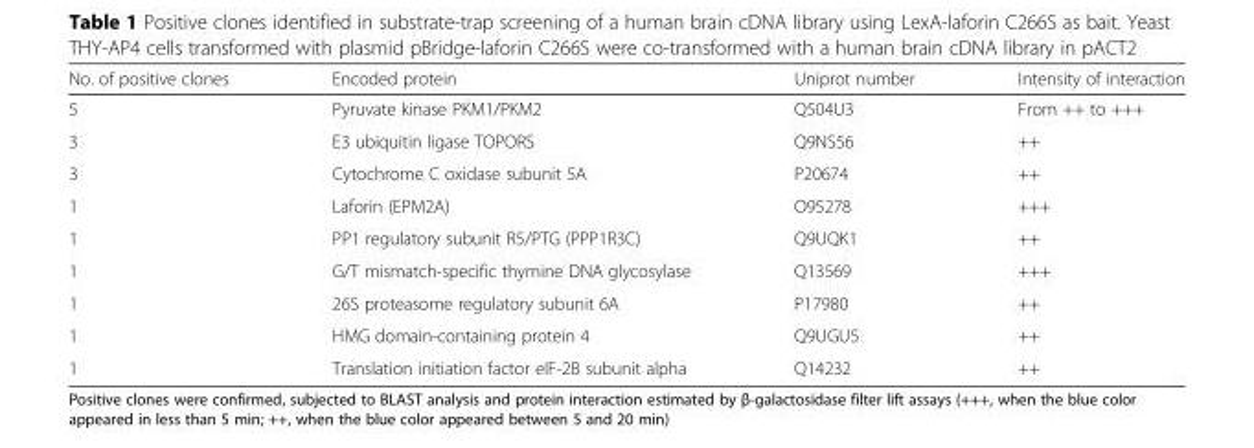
<table><thead><tr><td>No. of positive clones</td><td>Encoded protein</td><td>Uniprot number</td><td>Intensity of interaction</td></tr></thead><tbody><tr><td>5</td><td>Pyruvate kinase PKM1/PKM2</td><td>Q504U3</td><td>From ++ to +++</td></tr><tr><td>3</td><td>E3 ubiquitin ligase TOPORS</td><td>Q9NS56</td><td>++</td></tr><tr><td>3</td><td>Cytochrome C oxidase subunit 5A</td><td>P20674</td><td>++</td></tr><tr><td>1</td><td>Laforin (EPM2A)</td><td>O95278</td><td>+++</td></tr><tr><td>1</td><td>PP1 regulatory subunit R5/PTG (PPP1R3C)</td><td>Q9UQK1</td><td>++</td></tr><tr><td>1</td><td>G/T mismatch-specific thymine DNA glycosylase</td><td>Q13569</td><td>+++</td></tr><tr><td>1</td><td>26S proteasome regulatory subunit 6A</td><td>P17980</td><td>++</td></tr><tr><td>1</td><td>HMG domain-containing protein 4</td><td>Q9UGU5</td><td>++</td></tr><tr><td>1</td><td>Translation initiation factor eIF-2B subunit alpha</td><td>Q14232</td><td>++</td></tr></tbody></table>